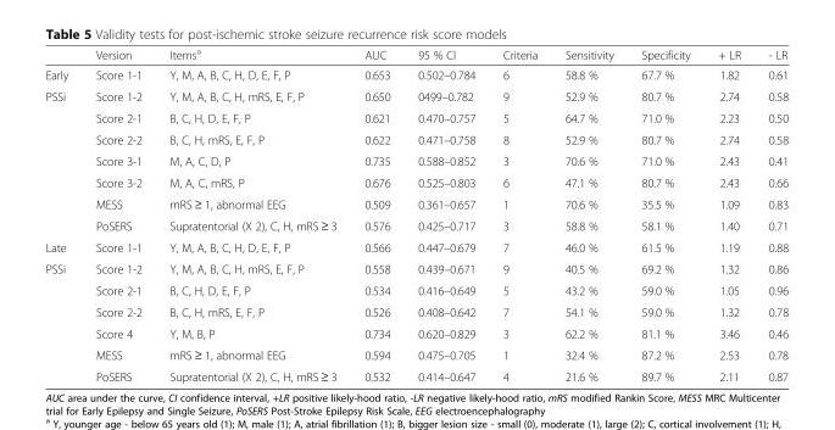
<table><thead><tr><td></td><td>Version</td><td>Items<sup>a</sup></td><td>AUC</td><td>95 % CI</td><td>Criteria</td><td>Sensitivity</td><td>Specificity</td><td>+ LR</td><td>- LR</td></tr></thead><tbody><tr><td>Early</td><td>Score 1-1</td><td>Y, M, A, B, C, H, D, E, F, P</td><td>0.653</td><td>0.502–0.784</td><td>6</td><td>58.8 %</td><td>67.7 %</td><td>1.82</td><td>0.61</td></tr><tr><td rowspan="7">PSSi</td><td>Score 1-2</td><td>Y, M, A, B, C, H, mRS, E, F, P</td><td>0.650</td><td>0499–0.782</td><td>9</td><td>52.9 %</td><td>80.7 %</td><td>2.74</td><td>0.58</td></tr><tr><td>Score 2-1</td><td>B, C, H, D, E, F, P</td><td>0.621</td><td>0.470–0.757</td><td>5</td><td>64.7 %</td><td>71.0 %</td><td>2.23</td><td>0.50</td></tr><tr><td>Score 2-2</td><td>B, C, H, mRS, E, F, P</td><td>0.622</td><td>0.471–0.758</td><td>8</td><td>52.9 %</td><td>80.7 %</td><td>2.74</td><td>0.58</td></tr><tr><td>Score 3-1</td><td>M, A, C, D, P</td><td>0.735</td><td>0.588–0.852</td><td>3</td><td>70.6 %</td><td>71.0 %</td><td>2.43</td><td>0.41</td></tr><tr><td>Score 3-2</td><td>M, A, C, mRS, P</td><td>0.676</td><td>0.525–0.803</td><td>6</td><td>47.1 %</td><td>80.7 %</td><td>2.43</td><td>0.66</td></tr><tr><td>MESS</td><td>mRS ≥ 1, abnormal EEG</td><td>0.509</td><td>0.361–0.657</td><td>1</td><td>70.6 %</td><td>35.5 %</td><td>1.09</td><td>0.83</td></tr><tr><td>PoSERS</td><td>Supratentorial (X 2), C, H, mRS ≥ 3</td><td>0.576</td><td>0.425–0.717</td><td>3</td><td>58.8 %</td><td>58.1 %</td><td>1.40</td><td>0.71</td></tr><tr><td>Late</td><td>Score 1-1</td><td>Y, M, A, B, C, H, D, E, F, P</td><td>0.566</td><td>0.447–0.679</td><td>7</td><td>46.0 %</td><td>61.5 %</td><td>1.19</td><td>0.88</td></tr><tr><td rowspan="6">PSSi</td><td>Score 1-2</td><td>Y, M, A, B, C, H, mRS, E, F, P</td><td>0.558</td><td>0.439–0.671</td><td>9</td><td>40.5 %</td><td>69.2 %</td><td>1.32</td><td>0.86</td></tr><tr><td>Score 2-1</td><td>B, C, H, D, E, F, P</td><td>0.534</td><td>0.416–0.649</td><td>5</td><td>43.2 %</td><td>59.0 %</td><td>1.05</td><td>0.96</td></tr><tr><td>Score 2-2</td><td>B, C, H, mRS, E, F, P</td><td>0.526</td><td>0.408–0.642</td><td>7</td><td>54.1 %</td><td>59.0 %</td><td>1.32</td><td>0.78</td></tr><tr><td>Score 4</td><td>Y, M, B, P</td><td>0.734</td><td>0.620–0.829</td><td>3</td><td>62.2 %</td><td>81.1 %</td><td>3.46</td><td>0.46</td></tr><tr><td>MESS</td><td>mRS ≥ 1, abnormal EEG</td><td>0.594</td><td>0.475–0.705</td><td>1</td><td>32.4 %</td><td>87.2 %</td><td>2.53</td><td>0.78</td></tr><tr><td>PoSERS</td><td>Supratentorial (X 2), C, H, mRS ≥ 3</td><td>0.532</td><td>0.414–0.647</td><td>4</td><td>21.6 %</td><td>89.7 %</td><td>2.11</td><td>0.87</td></tr></tbody></table>